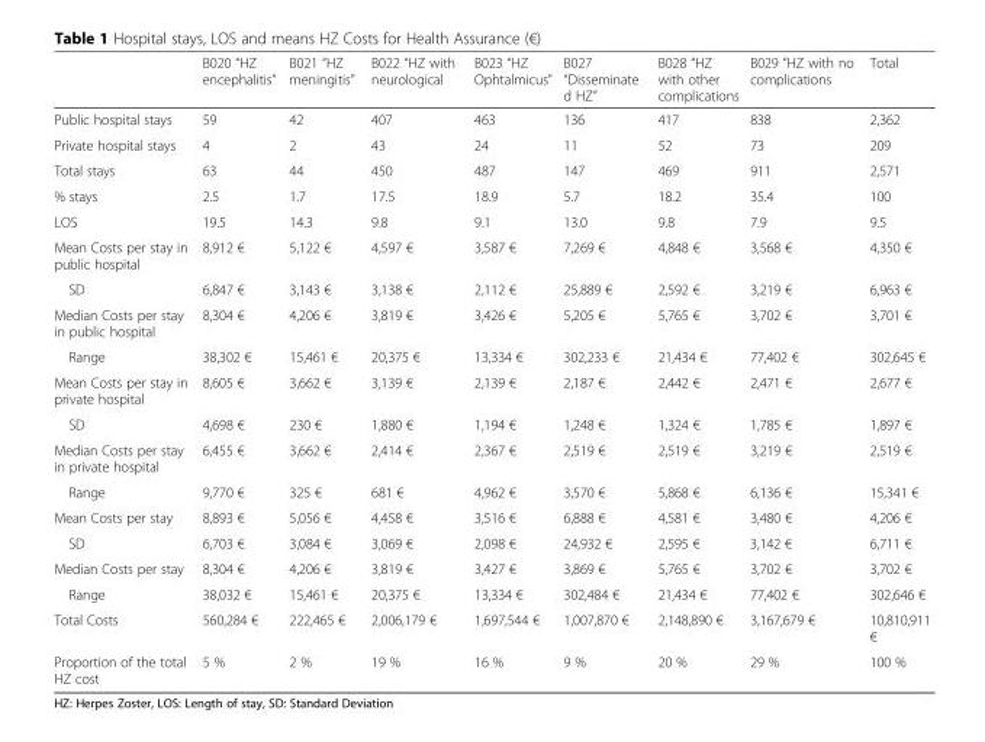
<table><thead><tr><td></td><td>B020 “HZ encephalitis”</td><td>B021 “HZ meningitis”</td><td>B022 “HZ with neurological</td><td>B023 “HZ Ophtalmicus”</td><td>B027 “Disseminate d HZ”</td><td>B028 “HZ with other complications</td><td>B029 ”HZ with no complications</td><td>Total</td></tr></thead><tbody><tr><td>Public hospital stays</td><td>59</td><td>42</td><td>407</td><td>463</td><td>136</td><td>417</td><td>838</td><td>2,362</td></tr><tr><td>Private hospital stays</td><td>4</td><td>2</td><td>43</td><td>24</td><td>11</td><td>52</td><td>73</td><td>209</td></tr><tr><td>Total stays</td><td>63</td><td>44</td><td>450</td><td>487</td><td>147</td><td>469</td><td>911</td><td>2,571</td></tr><tr><td>% stays</td><td>2.5</td><td>1.7</td><td>17.5</td><td>18.9</td><td>5.7</td><td>18.2</td><td>35.4</td><td>100</td></tr><tr><td>LOS</td><td>19.5</td><td>14.3</td><td>9.8</td><td>9.1</td><td>13.0</td><td>9.8</td><td>7.9</td><td>9.5</td></tr><tr><td>Mean Costs per stay in public hospital</td><td>8,912 €</td><td>5,122 €</td><td>4,597 €</td><td>3,587 €</td><td>7,269 €</td><td>4,848 €</td><td>3,568 €</td><td>4,350 €</td></tr><tr><td>SD</td><td>6,847 €</td><td>3,143 €</td><td>3,138 €</td><td>2,112 €</td><td>25,889 €</td><td>2,592 €</td><td>3,219 €</td><td>6,963 €</td></tr><tr><td>Median Costs per stay in public hospital</td><td>8,304 €</td><td>4,206 €</td><td>3,819 €</td><td>3,426 €</td><td>5,205 €</td><td>5,765 €</td><td>3,702 €</td><td>3,701 €</td></tr><tr><td>Range</td><td>38,302 €</td><td>15,461 €</td><td>20,375 €</td><td>13,334 €</td><td>302,233 €</td><td>21,434 €</td><td>77,402 €</td><td>302,645 €</td></tr><tr><td>Mean Costs per stay in private hospital</td><td>8,605 €</td><td>3,662 €</td><td>3,139 €</td><td>2,139 €</td><td>2,187 €</td><td>2,442 €</td><td>2,471 €</td><td>2,677 €</td></tr><tr><td>SD</td><td>4,698 €</td><td>230 €</td><td>1,880 €</td><td>1,194 €</td><td>1,248 €</td><td>1,324 €</td><td>1,785 €</td><td>1,897 €</td></tr><tr><td>Median Costs per stay in private hospital</td><td>6,455 €</td><td>3,662 €</td><td>2,414 €</td><td>2,367 €</td><td>2,519 €</td><td>2,519 €</td><td>3,219 €</td><td>2,519 €</td></tr><tr><td>Range</td><td>9,770 €</td><td>325 €</td><td>681 €</td><td>4,962 €</td><td>3,570 €</td><td>5,868 €</td><td>6,136 €</td><td>15,341 €</td></tr><tr><td>Mean Costs per stay</td><td>8,893 €</td><td>5,056 €</td><td>4,458 €</td><td>3,516 €</td><td>6,888 €</td><td>4,581 €</td><td>3,480 €</td><td>4,206 €</td></tr><tr><td>SD</td><td>6,703 €</td><td>3,084 €</td><td>3,069 €</td><td>2,098 €</td><td>24,932 €</td><td>2,595 €</td><td>3,142 €</td><td>6,711 €</td></tr><tr><td>Median Costs per stay</td><td>8,304 €</td><td>4,206 €</td><td>3,819 €</td><td>3,427 €</td><td>3,869 €</td><td>5,765 €</td><td>3,702 €</td><td>3,702 €</td></tr><tr><td>Range</td><td>38,032 €</td><td>15,461 €</td><td>20,375 €</td><td>13,334 €</td><td>302,484 €</td><td>21,434 €</td><td>77,402 €</td><td>302,646 €</td></tr><tr><td>Total Costs</td><td>560,284 €</td><td>222,465 €</td><td>2,006,179 €</td><td>1,697,544 €</td><td>1,007,870 €</td><td>2,148,890 €</td><td>3,167,679 €</td><td>10,810,911 €</td></tr><tr><td>Proportion of the total HZ cost</td><td>5 %</td><td>2 %</td><td>19 %</td><td>16 %</td><td>9 %</td><td>20 %</td><td>29 %</td><td>100 %</td></tr></tbody></table>